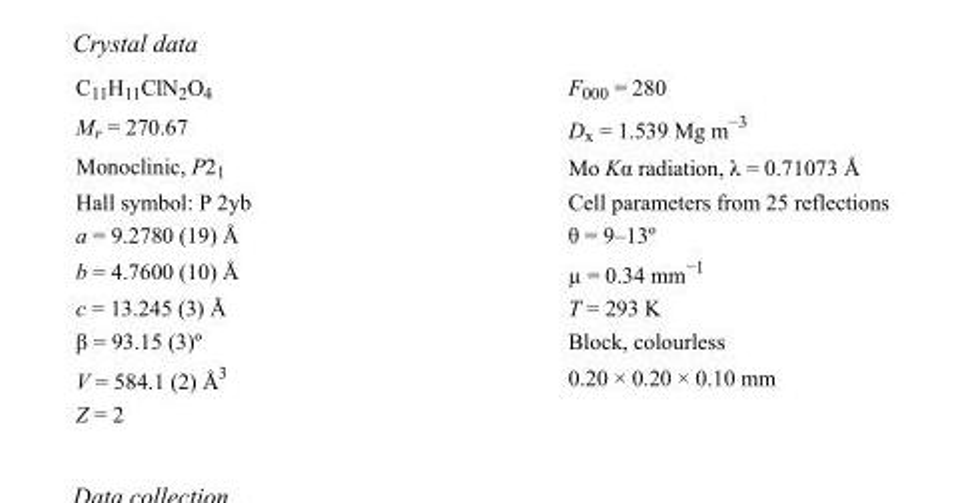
<table><tbody><tr><td>C<sub>11</sub>H<sub>11</sub>ClN<sub>2</sub>O<sub>4</sub></td><td>F000 = 280</td></tr><tr><td>M<sub>r</sub> = 270.67</td><td>D<sub>x</sub> = 1.539 Mg m<sup>−3</sup></td></tr><tr><td>Monoclinic, P2<sub>1</sub></td><td>Mo Kα radiation, λ = 0.71073 Å</td></tr><tr><td>Hall symbol: P 2yb</td><td>Cell parameters from 25 reflections</td></tr><tr><td>a = 9.2780 (19) Å</td><td>θ = 9–13º</td></tr><tr><td>b = 4.7600 (10) Å</td><td>µ = 0.34 mm<sup>−1</sup></td></tr><tr><td>c = 13.245 (3) Å</td><td>T = 293 K</td></tr><tr><td>β = 93.15 (3)º</td><td>Block, colourless</td></tr><tr><td>V = 584.1 (2) Å<sup>3</sup></td><td>0.20 × 0.20 × 0.10 mm</td></tr><tr><td>Z = 2</td><td></td></tr></tbody></table>